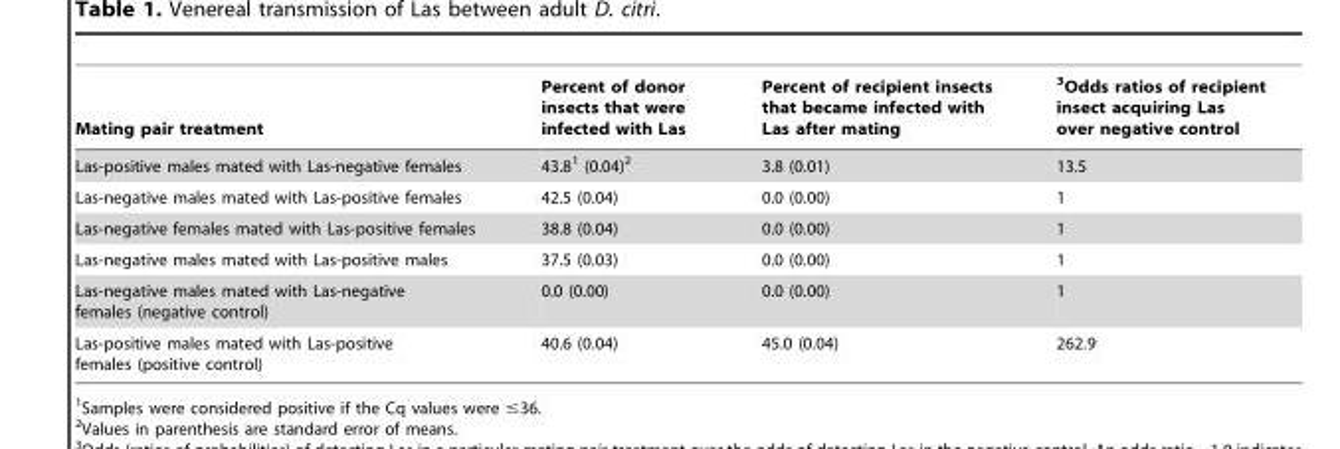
<table><thead><tr><td>Mating pair treatment</td><td>Percent of donor insects that were infected with Las</td><td>Percent of recipient insects that became infected with Las after mating</td><td>3Odds ratios of recipient insect acquiring Las over negative control</td></tr></thead><tbody><tr><td>Las-positive males mated with Las-negative females</td><td>43.8<sup>1</sup> (0.04)<sup>2</sup></td><td>3.8 (0.01)</td><td>13.5</td></tr><tr><td>Las-negative males mated with Las-positive females</td><td>42.5 (0.04)</td><td>0.0 (0.00)</td><td>1</td></tr><tr><td>Las-negative females mated with Las-positive females</td><td>38.8 (0.04)</td><td>0.0 (0.00)</td><td>1</td></tr><tr><td>Las-negative males mated with Las-positive males</td><td>37.5 (0.03)</td><td>0.0 (0.00)</td><td>1</td></tr><tr><td>Las-negative males mated with Las-negative females (negative control)</td><td>0.0 (0.00)</td><td>0.0 (0.00)</td><td>1</td></tr><tr><td>Las-positive males mated with Las-positive females (positive control)</td><td>40.6 (0.04)</td><td>45.0 (0.04)</td><td>262.9</td></tr></tbody></table>